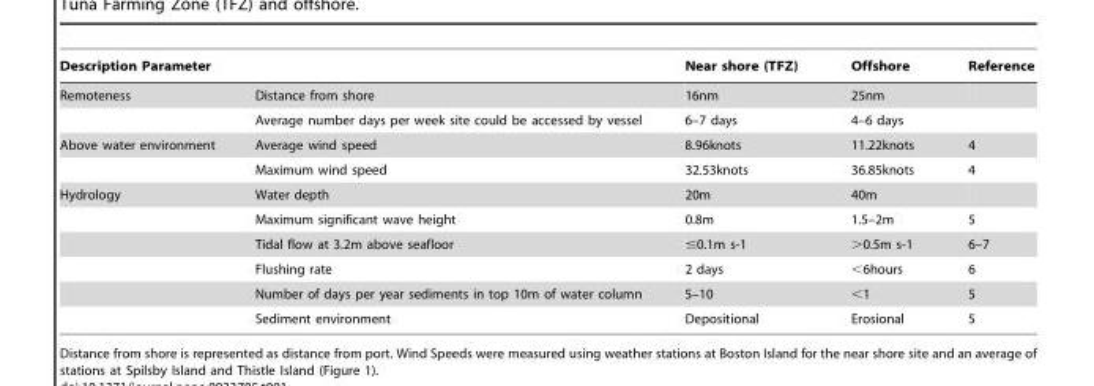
<table><thead><tr><td>Description Parameter</td><td></td><td>Near shore (TFZ)</td><td>Offshore</td><td>Reference</td></tr></thead><tbody><tr><td rowspan="2">Remoteness</td><td>Distance from shore</td><td>16nm</td><td>25nm</td><td></td></tr><tr><td>Average number days per week site could be accessed by vessel</td><td>6–7 days</td><td>4–6 days</td><td></td></tr><tr><td rowspan="2">Above water environment</td><td>Average wind speed</td><td>8.96knots</td><td>11.22knots</td><td>4</td></tr><tr><td>Maximum wind speed</td><td>32.53knots</td><td>36.85knots</td><td>4</td></tr><tr><td rowspan="6">Hydrology</td><td>Water depth</td><td>20m</td><td>40m</td><td></td></tr><tr><td>Maximum significant wave height</td><td>0.8m</td><td>1.5–2m</td><td>5</td></tr><tr><td>Tidal flow at 3.2m above seafloor</td><td>≤0.1m s-1</td><td>&gt;0.5m s-1</td><td>6–7</td></tr><tr><td>Flushing rate</td><td>2 days</td><td>&lt;6hours</td><td>6</td></tr><tr><td>Number of days per year sediments in top 10m of water column</td><td>5–10</td><td>&lt;1</td><td>5</td></tr><tr><td>Sediment environment</td><td>Depositional</td><td>Erosional</td><td>5</td></tr></tbody></table>